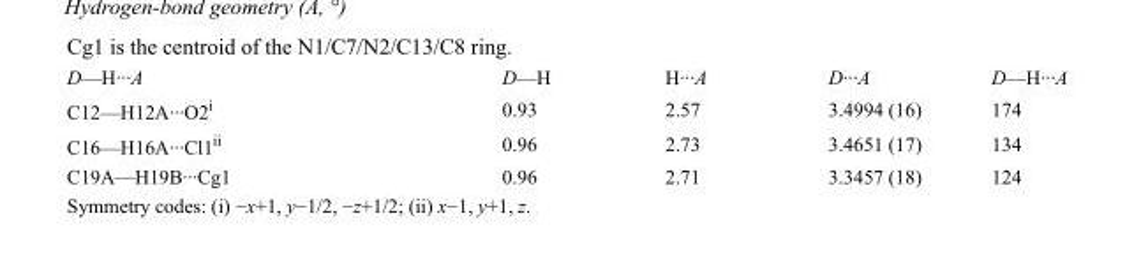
<table><tbody><tr><td>D—H···A</td><td>D—H</td><td>H···A</td><td>D···A</td><td>D—H···A</td></tr><tr><td>C12—H12A···O2<sup>i</sup></td><td>0.93</td><td>2.57</td><td>3.4994 (16)</td><td>174</td></tr><tr><td>C16—H16A···Cl1<sup>ii</sup></td><td>0.96</td><td>2.73</td><td>3.4651 (17)</td><td>134</td></tr><tr><td>C19A—H19B···Cg1</td><td>0.96</td><td>2.71</td><td>3.3457 (18)</td><td>124</td></tr></tbody></table>